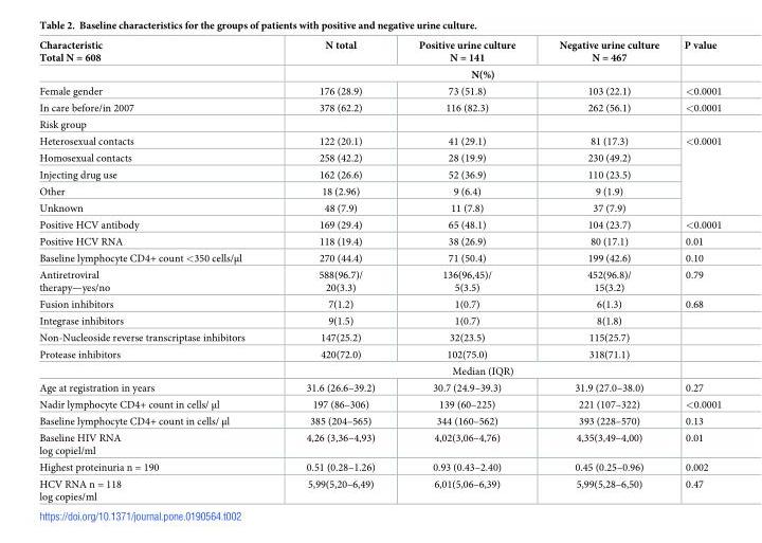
<table><thead><tr><td rowspan="2">Characteristic Total N = 608</td><td>N total</td><td>Positive urine culture N = 141</td><td>Negative urine culture N = 467</td><td rowspan="2">P value</td></tr><tr><td colspan="3">N(%)</td></tr></thead><tbody><tr><td>Female gender</td><td>176 (28.9)</td><td>73 (51.8)</td><td>103 (22.1)</td><td>&lt;0.0001</td></tr><tr><td>In care before/in 2007</td><td>378 (62.2)</td><td>116 (82.3)</td><td>262 (56.1)</td><td>&lt;0.0001</td></tr><tr><td colspan="5">Risk group</td></tr><tr><td>Heterosexual contacts</td><td>122 (20.1)</td><td>41 (29.1)</td><td>81 (17.3)</td><td rowspan="5">&lt;0.0001</td></tr><tr><td>Homosexual contacts</td><td>258 (42.2)</td><td>28 (19.9)</td><td>230 (49.2)</td></tr><tr><td>Injecting drug use</td><td>162 (26.6)</td><td>52 (36.9)</td><td>110 (23.5)</td></tr><tr><td>Other</td><td>18 (2.96)</td><td>9 (6.4)</td><td>9 (1.9)</td></tr><tr><td>Unknown</td><td>48 (7.9)</td><td>11 (7.8)</td><td>37 (7.9)</td></tr><tr><td>Positive HCV antibody</td><td>169 (29.4)</td><td>65 (48.1)</td><td>104 (23.7)</td><td>&lt;0.0001</td></tr><tr><td>Positive HCV RNA</td><td>118 (19.4)</td><td>38 (26.9)</td><td>80 (17.1)</td><td>0.01</td></tr><tr><td>Baseline lymphocyte CD4+ count &lt;350 cells/μl</td><td>270 (44.4)</td><td>71 (50.4)</td><td>199 (42.6)</td><td>0.10</td></tr><tr><td>Antiretroviral therapy—yes/no</td><td>588(96.7)/ 20(3.3)</td><td>136(96,45)/ 5(3.5)</td><td>452(96.8)/ 15(3.2)</td><td>0.79</td></tr><tr><td>Fusion inhibitors</td><td>7(1.2)</td><td>1(0.7)</td><td>6(1.3)</td><td>0.68</td></tr><tr><td>Integrase inhibitors</td><td>9(1.5)</td><td>1(0.7)</td><td>8(1.8)</td><td></td></tr><tr><td>Non-Nucleoside reverse transcriptase inhibitors</td><td>147(25.2)</td><td>32(23.5)</td><td>115(25.7)</td><td></td></tr><tr><td rowspan="2">Protease inhibitors</td><td>420(72.0)</td><td>102(75.0)</td><td>318(71.1)</td><td></td></tr><tr><td colspan="3">Median (IQR)</td><td></td></tr><tr><td>Age at registration in years</td><td>31.6 (26.6–39.2)</td><td>30.7 (24.9–39.3)</td><td>31.9 (27.0–38.0)</td><td>0.27</td></tr><tr><td>Nadir lymphocyte CD4+ count in cells/ μl</td><td>197 (86–306)</td><td>139 (60–225)</td><td>221 (107–322)</td><td>&lt;0.0001</td></tr><tr><td>Baseline lymphocyte CD4+ count in cells/ μl</td><td>385 (204–565)</td><td>344 (160–562)</td><td>393 (228–570)</td><td>0.13</td></tr><tr><td>Baseline HIV RNA log copiel/ml</td><td>4,26 (3,36–4,93)</td><td>4,02(3,06–4,76)</td><td>4,35(3,49–4,00)</td><td>0.01</td></tr><tr><td>Highest proteinuria n = 190</td><td>0.51 (0.28–1.26)</td><td>0.93 (0.43–2.40)</td><td>0.45 (0.25–0.96)</td><td>0.002</td></tr><tr><td>HCV RNA n = 118 log copies/ml</td><td>5,99(5,20–6,49)</td><td>6,01(5,06–6,39)</td><td>5,99(5,28–6,50)</td><td>0.47</td></tr></tbody></table>